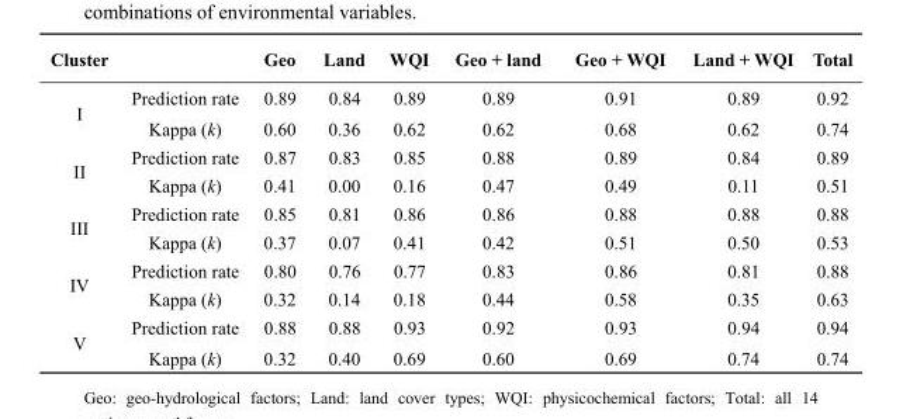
<table><thead><tr><td>Cluster</td><td></td><td>Geo</td><td>Land</td><td>WQI</td><td>Geo + land</td><td>Geo + WQI</td><td>Land + WQI</td><td>Total</td></tr></thead><tbody><tr><td rowspan="2">I</td><td>Prediction rate</td><td>0.89</td><td>0.84</td><td>0.89</td><td>0.89</td><td>0.91</td><td>0.89</td><td>0.92</td></tr><tr><td>Kappa (k)</td><td>0.60</td><td>0.36</td><td>0.62</td><td>0.62</td><td>0.68</td><td>0.62</td><td>0.74</td></tr><tr><td rowspan="2">II</td><td>Prediction rate</td><td>0.87</td><td>0.83</td><td>0.85</td><td>0.88</td><td>0.89</td><td>0.84</td><td>0.89</td></tr><tr><td>Kappa (k)</td><td>0.41</td><td>0.00</td><td>0.16</td><td>0.47</td><td>0.49</td><td>0.11</td><td>0.51</td></tr><tr><td rowspan="2">III</td><td>Prediction rate</td><td>0.85</td><td>0.81</td><td>0.86</td><td>0.86</td><td>0.88</td><td>0.88</td><td>0.88</td></tr><tr><td>Kappa (k)</td><td>0.37</td><td>0.07</td><td>0.41</td><td>0.42</td><td>0.51</td><td>0.50</td><td>0.53</td></tr><tr><td rowspan="2">IV</td><td>Prediction rate</td><td>0.80</td><td>0.76</td><td>0.77</td><td>0.83</td><td>0.86</td><td>0.81</td><td>0.88</td></tr><tr><td>Kappa (k)</td><td>0.32</td><td>0.14</td><td>0.18</td><td>0.44</td><td>0.58</td><td>0.35</td><td>0.63</td></tr><tr><td rowspan="2">V</td><td>Prediction rate</td><td>0.88</td><td>0.88</td><td>0.93</td><td>0.92</td><td>0.93</td><td>0.94</td><td>0.94</td></tr><tr><td>Kappa (k)</td><td>0.32</td><td>0.40</td><td>0.69</td><td>0.60</td><td>0.69</td><td>0.74</td><td>0.74</td></tr></tbody></table>